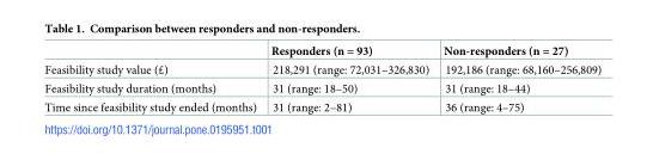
<table><thead><tr><td></td><td>Responders (n = 93)</td><td>Non-responders (n = 27)</td></tr></thead><tbody><tr><td>Feasibility study value (£)</td><td>218,291 (range: 72,031–326,830)</td><td>192,186 (range: 68,160–256,809)</td></tr><tr><td>Feasibility study duration (months)</td><td>31 (range: 18–50)</td><td>31 (range: 18–44)</td></tr><tr><td>Time since feasibility study ended (months)</td><td>31 (range: 2–81)</td><td>36 (range: 4–75)</td></tr></tbody></table>